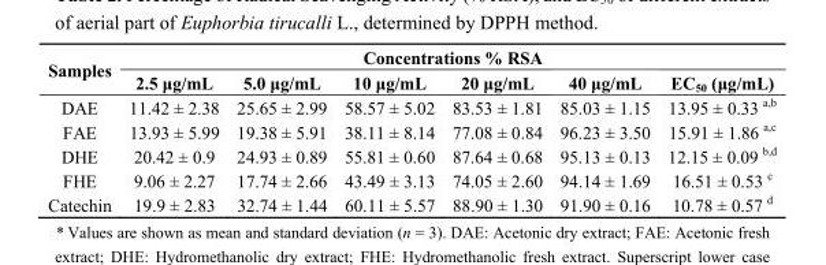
<table><thead><tr><td rowspan="2">Samples</td><td colspan="6">Concentrations % RSA</td></tr><tr><td>2.5 μg/mL</td><td>5.0 μg/mL</td><td>10 μg/mL</td><td>20 μg/mL</td><td>40 μg/mL</td><td>EC<sub>50</sub> (μg/mL)</td></tr></thead><tbody><tr><td>DAE</td><td>11.42 ± 2.38</td><td>25.65 ± 2.99</td><td>58.57 ± 5.02</td><td>83.53 ± 1.81</td><td>85.03 ± 1.15</td><td>13.95 ± 0.33 <sup>a,b</sup></td></tr><tr><td>FAE</td><td>13.93 ± 5.99</td><td>19.38 ± 5.91</td><td>38.11 ± 8.14</td><td>77.08 ± 0.84</td><td>96.23 ± 3.50</td><td>15.91 ± 1.86 <sup>a,c</sup></td></tr><tr><td>DHE</td><td>20.42 ± 0.9</td><td>24.93 ± 0.89</td><td>55.81 ± 0.60</td><td>87.64 ± 0.68</td><td>95.13 ± 0.13</td><td>12.15 ± 0.09 <sup>b,d</sup></td></tr><tr><td>FHE</td><td>9.06 ± 2.27</td><td>17.74 ± 2.66</td><td>43.49 ± 3.13</td><td>74.05 ± 2.60</td><td>94.14 ± 1.69</td><td>16.51 ± 0.53 <sup>c</sup></td></tr><tr><td>Catechin</td><td>19.9 ± 2.83</td><td>32.74 ± 1.44</td><td>60.11 ± 5.57</td><td>88.90 ± 1.30</td><td>91.90 ± 0.16</td><td>10.78 ± 0.57 <sup>d</sup></td></tr></tbody></table>